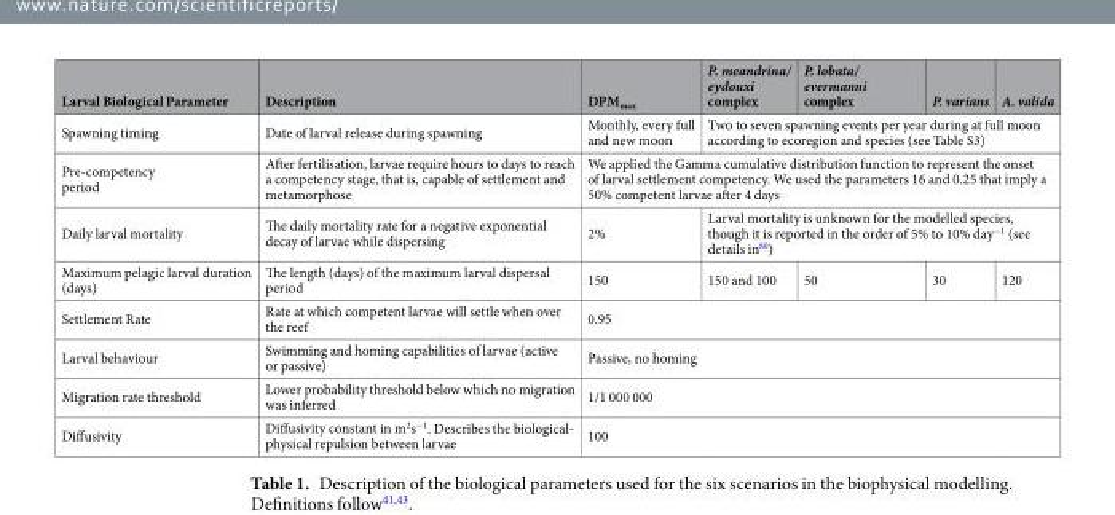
<table><thead><tr><td>Larval Biological Parameter</td><td>Description</td><td>DPM<sub>max</sub></td><td>P. meandrina/ eydouxi complex</td><td>P. lobata/ evermanni complex</td><td>P. varians</td><td>A. valida</td></tr></thead><tbody><tr><td>Spawning timing</td><td>Date of larval release during spawning</td><td>Monthly, every full and new moon</td><td colspan="4">Two to seven spawning events per year during at full moon according to ecoregion and species (see Table S3)</td></tr><tr><td>Pre-competency period</td><td>After fertilisation, larvae require hours to days to reach a competency stage, that is, capable of settlement and metamorphose</td><td colspan="5">We applied the Gamma cumulative distribution function to represent the onset of larval settlement competency. We used the parameters 16 and 0.25 that imply a 50% competent larvae after 4 days</td></tr><tr><td>Daily larval mortality</td><td>The daily mortality rate for a negative exponential decay of larvae while dispersing</td><td>2%</td><td colspan="4">Larval mortality is unknown for the modelled species, though it is reported in the order of 5% to 10% day<sup>−1</sup> (see details in<sup>80</sup>)</td></tr><tr><td>Maximum pelagic larval duration (days)</td><td>The length (days) of the maximum larval dispersal period</td><td>150</td><td>150 and 100</td><td>50</td><td>30</td><td>120</td></tr><tr><td>Settlement Rate</td><td>Rate at which competent larvae will settle when over the reef</td><td colspan="5">0.95</td></tr><tr><td>Larval behaviour</td><td>Swimming and homing capabilities of larvae (active or passive)</td><td colspan="5">Passive, no homing</td></tr><tr><td>Migration rate threshold</td><td>Lower probability threshold below which no migration was inferred</td><td colspan="5">1/1 000 000</td></tr><tr><td>Diffusivity</td><td>Diffusivity constant in m<sup>2</sup>s<sup>−1</sup>. Describes the biological- physical repulsion between larvae</td><td colspan="5">100</td></tr></tbody></table>